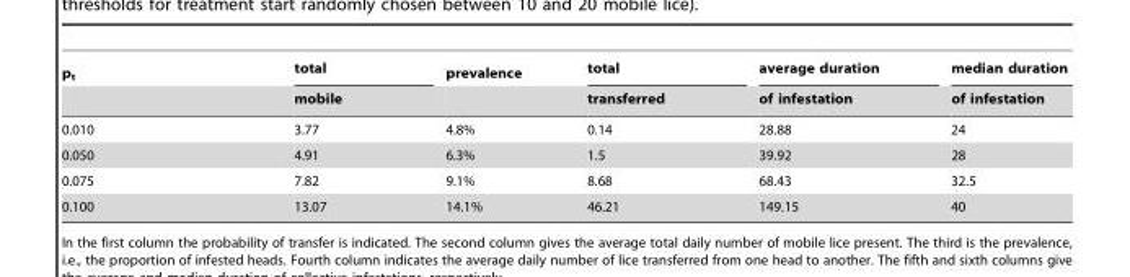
<table><thead><tr><td rowspan="2">p<sub>t</sub></td><td rowspan="2">total mobile</td><td rowspan="2">prevalence</td><td rowspan="2">total transferred</td><td rowspan="2">average duration of infestation</td><td rowspan="2">median duration of infestation</td></tr><tr></tr></thead><tbody><tr><td>0.010</td><td>3.77</td><td>4.8%</td><td>0.14</td><td>28.88</td><td>24</td></tr><tr><td>0.050</td><td>4.91</td><td>6.3%</td><td>1.5</td><td>39.92</td><td>28</td></tr><tr><td>0.075</td><td>7.82</td><td>9.1%</td><td>8.68</td><td>68.43</td><td>32.5</td></tr><tr><td>0.100</td><td>13.07</td><td>14.1%</td><td>46.21</td><td>149.15</td><td>40</td></tr></tbody></table>